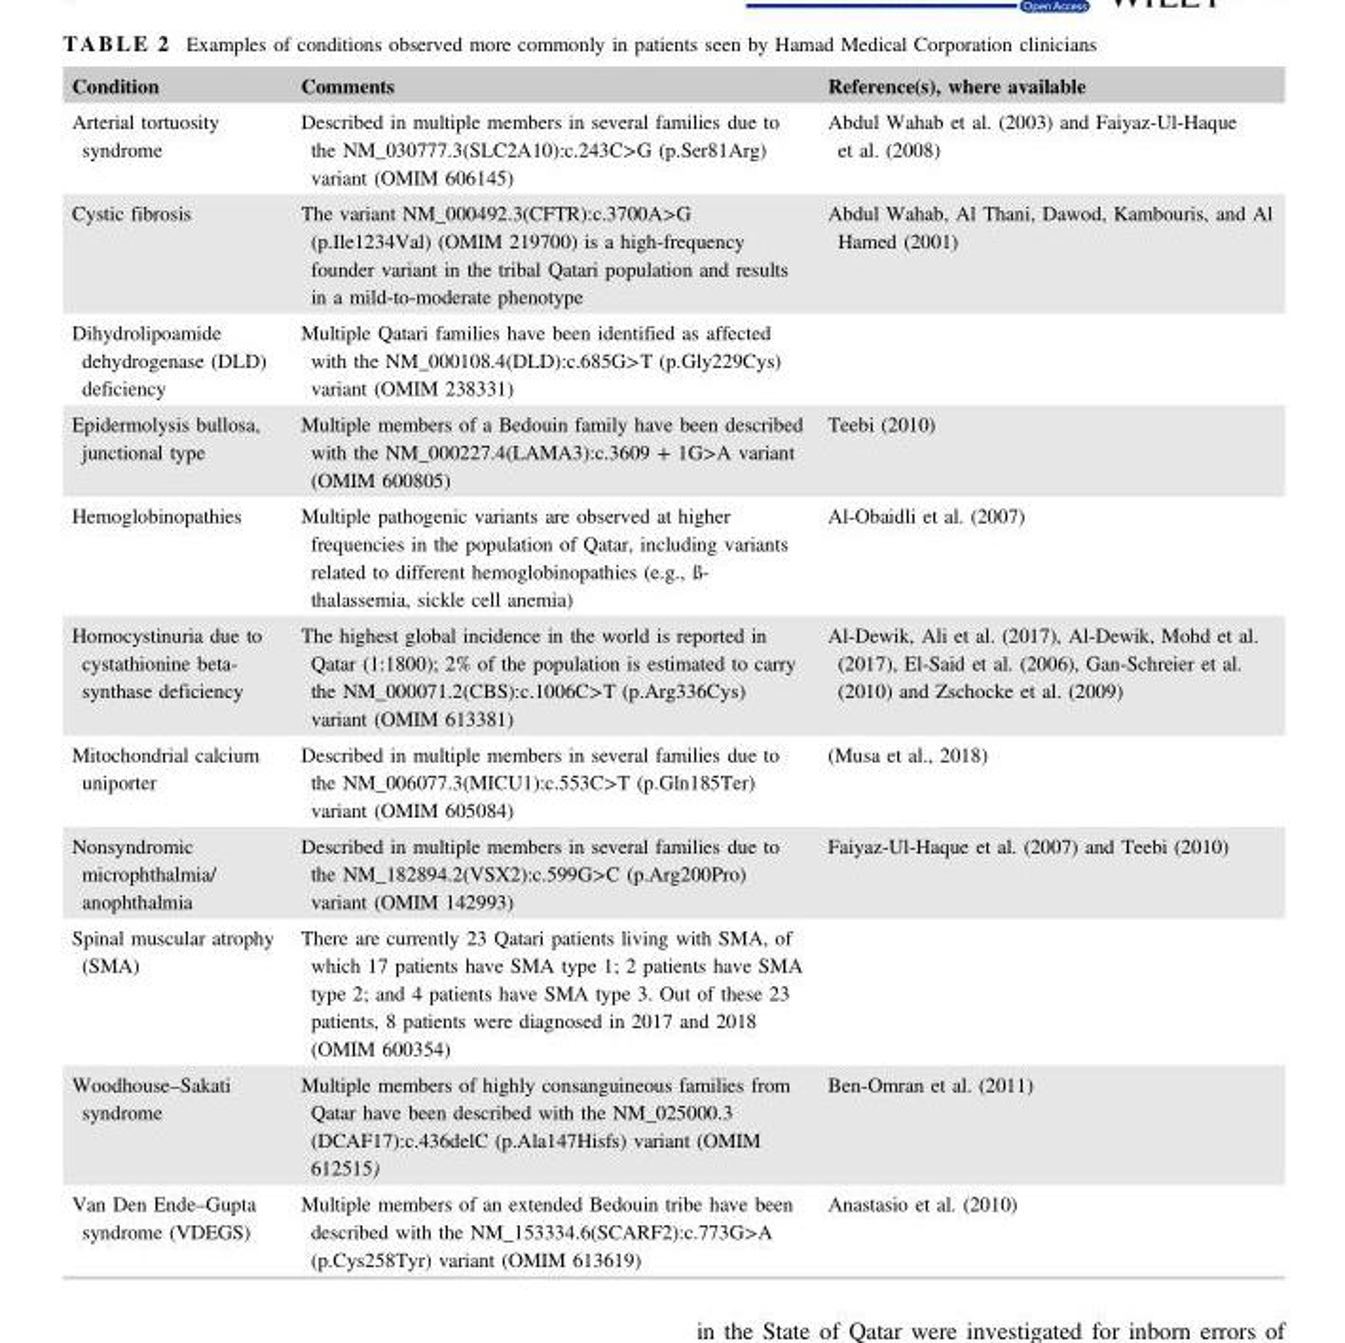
<table><thead><tr><td>Condition</td><td>Comments</td><td>Reference(s), where available</td></tr></thead><tbody><tr><td>Arterial tortuosity syndrome</td><td>Described in multiple members in several families due to the NM_030777.3(SLC2A10):c.243C&gt;G (p.Ser81Arg) variant (OMIM 606145)</td><td>Abdul Wahab et al. (2003) and Faiyaz‐Ul‐Haque et al. (2008)</td></tr><tr><td>Cystic fibrosis</td><td>The variant NM_000492.3(CFTR):c.3700A&gt;G (p.Ile1234Val) (OMIM 219700) is a high‐frequency founder variant in the tribal Qatari population and results in a mild‐to‐moderate phenotype</td><td>Abdul Wahab, Al Thani, Dawod, Kambouris, and Al Hamed (2001)</td></tr><tr><td>Dihydrolipoamide dehydrogenase (DLD) deficiency</td><td>Multiple Qatari families have been identified as affected with the NM_000108.4(DLD):c.685G&gt;T (p.Gly229Cys) variant (OMIM 238331)</td><td></td></tr><tr><td>Epidermolysis bullosa, junctional type</td><td>Multiple members of a Bedouin family have been described with the NM_000227.4(LAMA3):c.3609 + 1G&gt;A variant (OMIM 600805)</td><td>Teebi (2010)</td></tr><tr><td>Hemoglobinopathies</td><td>Multiple pathogenic variants are observed at higher frequencies in the population of Qatar, including variants related to different hemoglobinopathies (e.g., ß‐ thalassemia, sickle cell anemia)</td><td>Al‐Obaidli et al. (2007)</td></tr><tr><td>Homocystinuria due to cystathionine beta‐ synthase deficiency</td><td>The highest global incidence in the world is reported in Qatar (1:1800); 2% of the population is estimated to carry the NM_000071.2(CBS):c.1006C&gt;T (p.Arg336Cys) variant (OMIM 613381)</td><td>Al‐Dewik, Ali et al. (2017), Al‐Dewik, Mohd et al. (2017), El‐Said et al. (2006), Gan‐Schreier et al. (2010) and Zschocke et al. (2009)</td></tr><tr><td>Mitochondrial calcium uniporter</td><td>Described in multiple members in several families due to the NM_006077.3(MICU1):c.553C&gt;T (p.Gln185Ter) variant (OMIM 605084)</td><td>(Musa et al., 2018)</td></tr><tr><td>Nonsyndromic microphthalmia/ anophthalmia</td><td>Described in multiple members in several families due to the NM_182894.2(VSX2):c.599G&gt;C (p.Arg200Pro) variant (OMIM 142993)</td><td>Faiyaz‐Ul‐Haque et al. (2007) and Teebi (2010)</td></tr><tr><td>Spinal muscular atrophy (SMA)</td><td>There are currently 23 Qatari patients living with SMA, of which 17 patients have SMA type 1; 2 patients have SMA type 2; and 4 patients have SMA type 3. Out of these 23 patients, 8 patients were diagnosed in 2017 and 2018 (OMIM 600354)</td><td></td></tr><tr><td>Woodhouse–Sakati syndrome</td><td>Multiple members of highly consanguineous families from Qatar have been described with the NM_025000.3 (DCAF17):c.436delC (p.Ala147Hisfs) variant (OMIM 612515)</td><td>Ben‐Omran et al. (2011)</td></tr><tr><td>Van Den Ende–Gupta syndrome (VDEGS)</td><td>Multiple members of an extended Bedouin tribe have been described with the NM_153334.6(SCARF2):c.773G&gt;A (p.Cys258Tyr) variant (OMIM 613619)</td><td>Anastasio et al. (2010)</td></tr></tbody></table>